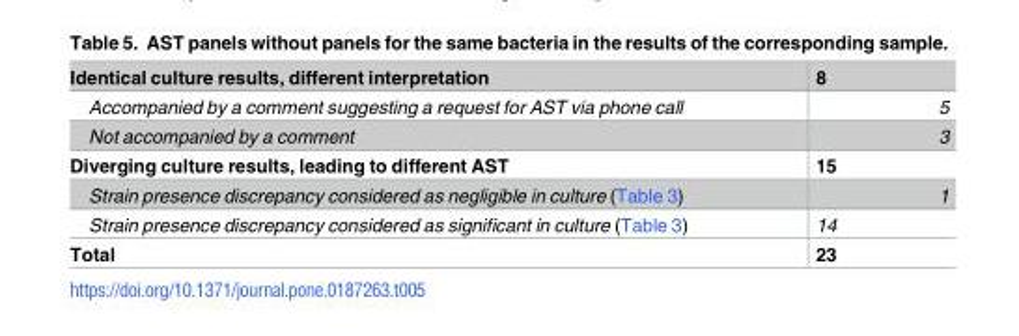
<table><tbody><tr><td>Identical culture results, different interpretation</td><td>8</td></tr><tr><td>Accompanied by a comment suggesting a request for AST via phone call</td><td>5</td></tr><tr><td>Not accompanied by a comment</td><td>3</td></tr><tr><td>Diverging culture results, leading to different AST</td><td>15</td></tr><tr><td>Strain presence discrepancy considered as negligible in culture (Table 3)</td><td>1</td></tr><tr><td>Strain presence discrepancy considered as significant in culture (Table 3)</td><td>14</td></tr><tr><td>Total</td><td>23</td></tr></tbody></table>